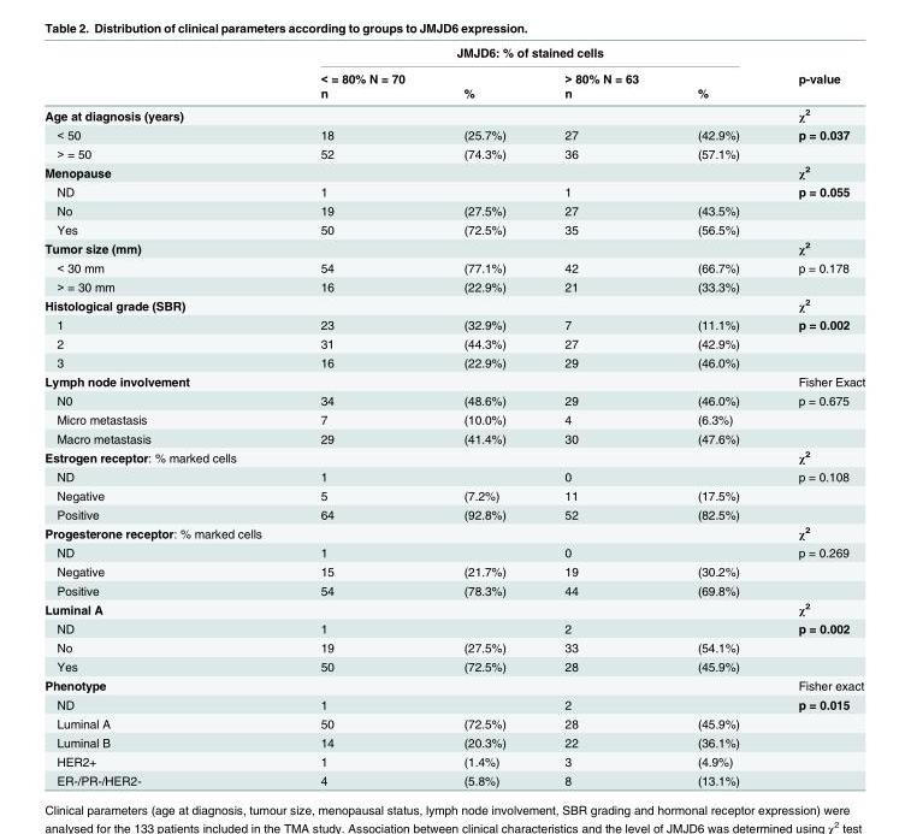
<table><thead><tr><td rowspan="3"></td><td colspan="4">JMJD6: % of stained cells</td><td rowspan="3">p-value</td></tr><tr><td rowspan="2">&lt; = 80% N = 70 n</td><td rowspan="2">%</td><td rowspan="2">&gt; 80% N = 63 n</td><td rowspan="2">%</td></tr><tr></tr></thead><tbody><tr><td>Age at diagnosis (years)</td><td></td><td></td><td></td><td></td><td>χ<sup>2</sup></td></tr><tr><td>&lt; 50</td><td>18</td><td>(25.7%)</td><td>27</td><td>(42.9%)</td><td>p = 0.037</td></tr><tr><td>&gt; = 50</td><td>52</td><td>(74.3%)</td><td>36</td><td>(57.1%)</td><td></td></tr><tr><td>Menopause</td><td></td><td></td><td></td><td></td><td>χ<sup>2</sup></td></tr><tr><td>ND</td><td>1</td><td></td><td>1</td><td></td><td>p = 0.055</td></tr><tr><td>No</td><td>19</td><td>(27.5%)</td><td>27</td><td>(43.5%)</td><td></td></tr><tr><td>Yes</td><td>50</td><td>(72.5%)</td><td>35</td><td>(56.5%)</td><td></td></tr><tr><td>Tumor size (mm)</td><td></td><td></td><td></td><td></td><td>χ<sup>2</sup></td></tr><tr><td>&lt; 30 mm</td><td>54</td><td>(77.1%)</td><td>42</td><td>(66.7%)</td><td>p = 0.178</td></tr><tr><td>&gt; = 30 mm</td><td>16</td><td>(22.9%)</td><td>21</td><td>(33.3%)</td><td></td></tr><tr><td>Histological grade (SBR)</td><td></td><td></td><td></td><td></td><td>χ<sup>2</sup></td></tr><tr><td>1</td><td>23</td><td>(32.9%)</td><td>7</td><td>(11.1%)</td><td>p = 0.002</td></tr><tr><td>2</td><td>31</td><td>(44.3%)</td><td>27</td><td>(42.9%)</td><td></td></tr><tr><td>3</td><td>16</td><td>(22.9%)</td><td>29</td><td>(46.0%)</td><td></td></tr><tr><td>Lymph node involvement</td><td></td><td></td><td></td><td></td><td>Fisher Exact</td></tr><tr><td>N0</td><td>34</td><td>(48.6%)</td><td>29</td><td>(46.0%)</td><td>p = 0.675</td></tr><tr><td>Micro metastasis</td><td>7</td><td>(10.0%)</td><td>4</td><td>(6.3%)</td><td></td></tr><tr><td>Macro metastasis</td><td>29</td><td>(41.4%)</td><td>30</td><td>(47.6%)</td><td></td></tr><tr><td>Estrogen receptor: % marked cells</td><td></td><td></td><td></td><td></td><td>χ<sup>2</sup></td></tr><tr><td>ND</td><td>1</td><td></td><td>0</td><td></td><td>p = 0.108</td></tr><tr><td>Negative</td><td>5</td><td>(7.2%)</td><td>11</td><td>(17.5%)</td><td></td></tr><tr><td>Positive</td><td>64</td><td>(92.8%)</td><td>52</td><td>(82.5%)</td><td></td></tr><tr><td>Progesterone receptor: % marked cells</td><td></td><td></td><td></td><td></td><td>χ<sup>2</sup></td></tr><tr><td>ND</td><td>1</td><td></td><td>0</td><td></td><td>p = 0.269</td></tr><tr><td>Negative</td><td>15</td><td>(21.7%)</td><td>19</td><td>(30.2%)</td><td></td></tr><tr><td>Positive</td><td>54</td><td>(78.3%)</td><td>44</td><td>(69.8%)</td><td></td></tr><tr><td>Luminal A</td><td></td><td></td><td></td><td></td><td>χ<sup>2</sup></td></tr><tr><td>ND</td><td>1</td><td></td><td>2</td><td></td><td>p = 0.002</td></tr><tr><td>No</td><td>19</td><td>(27.5%)</td><td>33</td><td>(54.1%)</td><td></td></tr><tr><td>Yes</td><td>50</td><td>(72.5%)</td><td>28</td><td>(45.9%)</td><td></td></tr><tr><td>Phenotype</td><td></td><td></td><td></td><td></td><td>Fisher exact</td></tr><tr><td>ND</td><td>1</td><td></td><td>2</td><td></td><td>p = 0.015</td></tr><tr><td>Luminal A</td><td>50</td><td>(72.5%)</td><td>28</td><td>(45.9%)</td><td></td></tr><tr><td>Luminal B</td><td>14</td><td>(20.3%)</td><td>22</td><td>(36.1%)</td><td></td></tr><tr><td>HER2+</td><td>1</td><td>(1.4%)</td><td>3</td><td>(4.9%)</td><td></td></tr><tr><td>ER-/PR-/HER2-</td><td>4</td><td>(5.8%)</td><td>8</td><td>(13.1%)</td><td></td></tr></tbody></table>